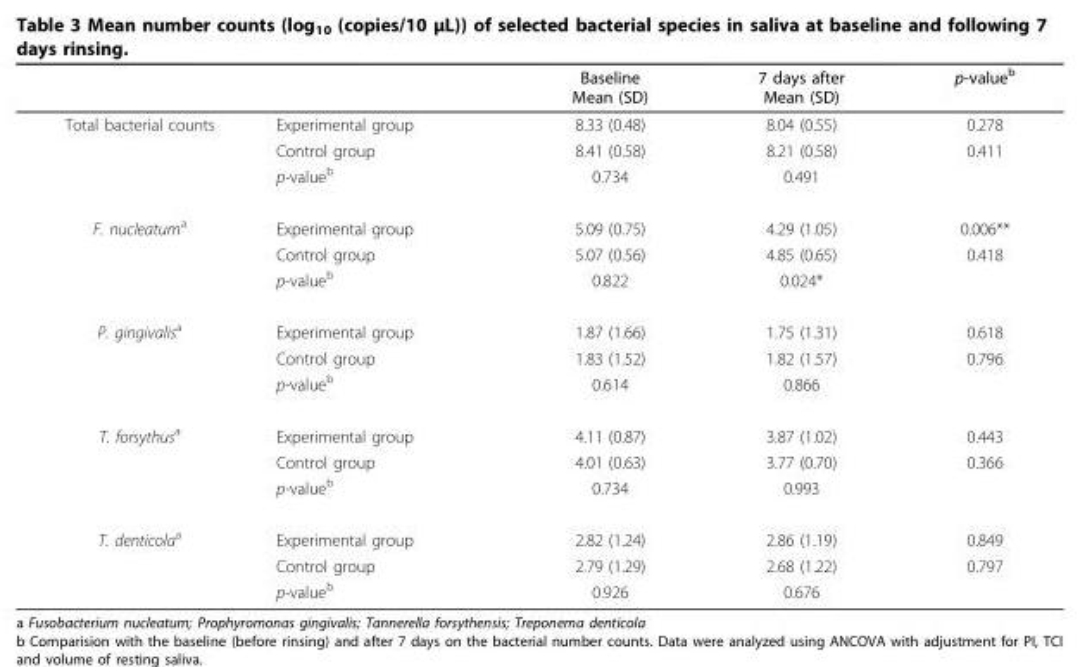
<table><thead><tr><td></td><td></td><td>Baseline Mean (SD)</td><td>7 days after Mean (SD)</td><td>p-value<sup>b</sup></td></tr></thead><tbody><tr><td rowspan="3">Total bacterial counts</td><td>Experimental group</td><td>8.33 (0.48)</td><td>8.04 (0.55)</td><td>0.278</td></tr><tr><td>Control group</td><td>8.41 (0.58)</td><td>8.21 (0.58)</td><td>0.411</td></tr><tr><td>p-value<sup>b</sup></td><td>0.734</td><td>0.491</td><td></td></tr><tr><td rowspan="3">F. nucleatum<sup>a</sup></td><td>Experimental group</td><td>5.09 (0.75)</td><td>4.29 (1.05)</td><td>0.006**</td></tr><tr><td>Control group</td><td>5.07 (0.56)</td><td>4.85 (0.65)</td><td>0.418</td></tr><tr><td>p-value<sup>b</sup></td><td>0.822</td><td>0.024*</td><td></td></tr><tr><td rowspan="3">P. gingivalis<sup>a</sup></td><td>Experimental group</td><td>1.87 (1.66)</td><td>1.75 (1.31)</td><td>0.618</td></tr><tr><td>Control group</td><td>1.83 (1.52)</td><td>1.82 (1.57)</td><td>0.796</td></tr><tr><td>p-value<sup>b</sup></td><td>0.614</td><td>0.866</td><td></td></tr><tr><td rowspan="3">T. forsythus<sup>a</sup></td><td>Experimental group</td><td>4.11 (0.87)</td><td>3.87 (1.02)</td><td>0.443</td></tr><tr><td>Control group</td><td>4.01 (0.63)</td><td>3.77 (0.70)</td><td>0.366</td></tr><tr><td>p-value<sup>b</sup></td><td>0.734</td><td>0.993</td><td></td></tr><tr><td rowspan="3">T. denticola<sup>a</sup></td><td>Experimental group</td><td>2.82 (1.24)</td><td>2.86 (1.19)</td><td>0.849</td></tr><tr><td>Control group</td><td>2.79 (1.29)</td><td>2.68 (1.22)</td><td>0.797</td></tr><tr><td>p-value<sup>b</sup></td><td>0.926</td><td>0.676</td><td></td></tr></tbody></table>